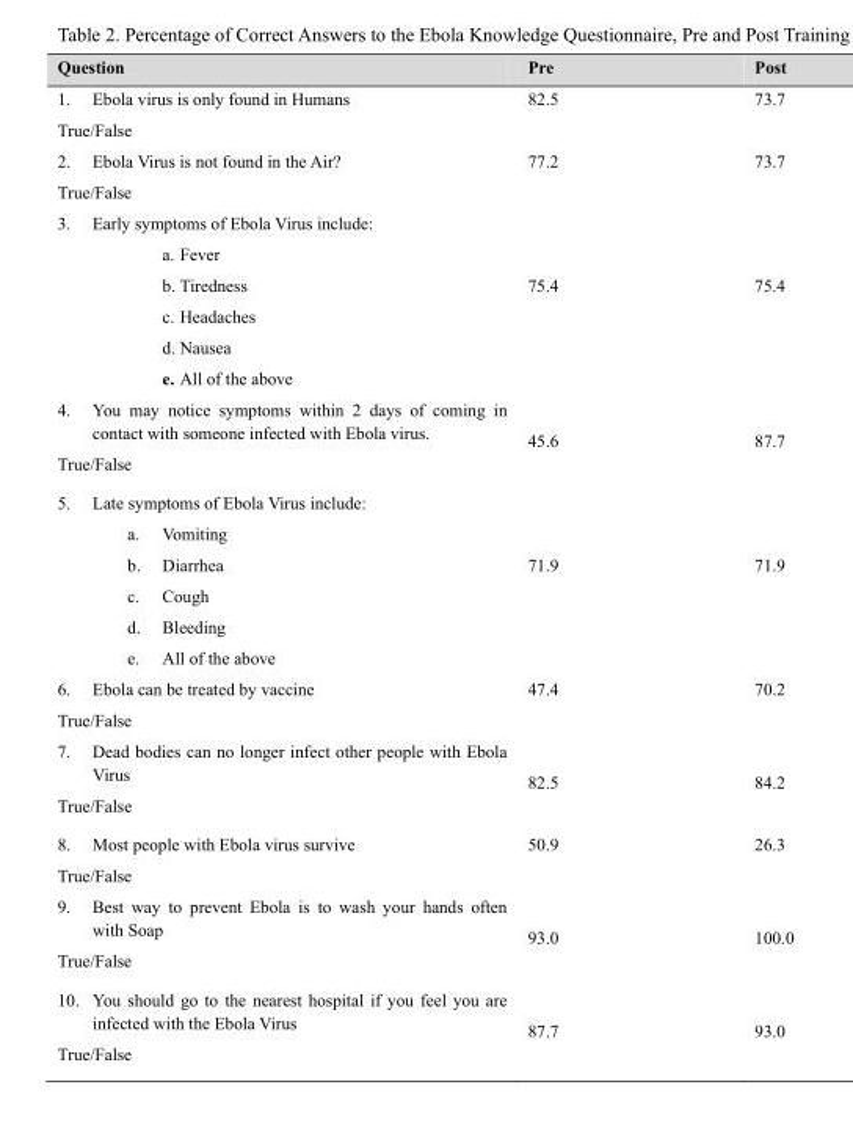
<table><thead><tr><td>Question</td><td>Pre</td><td>Post</td></tr></thead><tbody><tr><td>1. Ebola virus is only found in Humans True/False</td><td>82.5</td><td>73.7</td></tr><tr><td>2. Ebola Virus is not found in the Air? True/False</td><td>77.2</td><td>73.7</td></tr><tr><td>3. Early symptoms of Ebola Virus include: a. Fever b. Tiredness c. Headaches d. Nausea e. All of the above</td><td>75.4</td><td>75.4</td></tr><tr><td>4. You may notice symptoms within 2 days of coming in contact with someone infected with Ebola virus. True/False</td><td>45.6</td><td>87.7</td></tr><tr><td>5. Late symptoms of Ebola Virus include: a. Vomiting b. Diarrhea c. Cough d. Bleeding e. All of the above</td><td>71.9</td><td>71.9</td></tr><tr><td>6. Ebola can be treated by vaccine True/False</td><td>47.4</td><td>70.2</td></tr><tr><td>7. Dead bodies can no longer infect other people with Ebola Virus True/False</td><td>82.5</td><td>84.2</td></tr><tr><td>8. Most people with Ebola virus survive True/False</td><td>50.9</td><td>26.3</td></tr><tr><td>9. Best way to prevent Ebola is to wash your hands often with Soap True/False</td><td>93.0</td><td>100.0</td></tr><tr><td>10. You should go to the nearest hospital if you feel you are infected with the Ebola Virus True/False</td><td>87.7</td><td>93.0</td></tr></tbody></table>